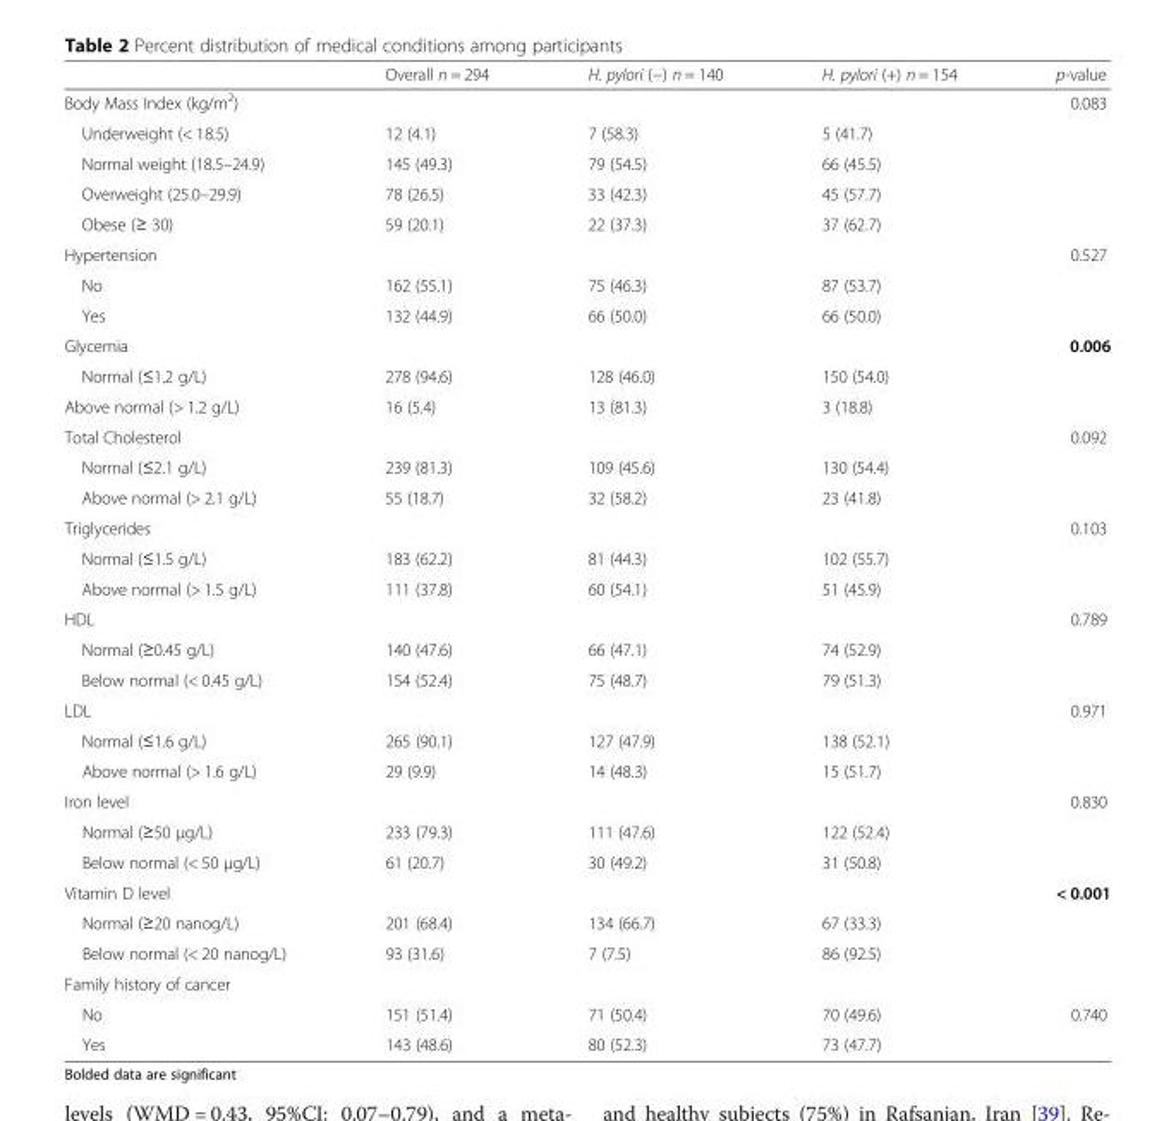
<table><thead><tr><td></td><td>Overall n = 294</td><td>H. pylori (−) n = 140</td><td>H. pylori (+) n = 154</td><td>p-value</td></tr></thead><tbody><tr><td>Body Mass Index (kg/m<sup>2</sup>)</td><td></td><td></td><td></td><td>0.083</td></tr><tr><td>Underweight (&lt; 18.5)</td><td>12 (4.1)</td><td>7 (58.3)</td><td>5 (41.7)</td><td></td></tr><tr><td>Normal weight (18.5–24.9)</td><td>145 (49.3)</td><td>79 (54.5)</td><td>66 (45.5)</td><td></td></tr><tr><td>Overweight (25.0–29.9)</td><td>78 (26.5)</td><td>33 (42.3)</td><td>45 (57.7)</td><td></td></tr><tr><td>Obese (≥ 30)</td><td>59 (20.1)</td><td>22 (37.3)</td><td>37 (62.7)</td><td></td></tr><tr><td>Hypertension</td><td></td><td></td><td></td><td>0.527</td></tr><tr><td>No</td><td>162 (55.1)</td><td>75 (46.3)</td><td>87 (53.7)</td><td></td></tr><tr><td>Yes</td><td>132 (44.9)</td><td>66 (50.0)</td><td>66 (50.0)</td><td></td></tr><tr><td>Glycemia</td><td></td><td></td><td></td><td>0.006</td></tr><tr><td>Normal (≤1.2 g/L)</td><td>278 (94.6)</td><td>128 (46.0)</td><td>150 (54.0)</td><td></td></tr><tr><td>Above normal (&gt; 1.2 g/L)</td><td>16 (5.4)</td><td>13 (81.3)</td><td>3 (18.8)</td><td></td></tr><tr><td>Total Cholesterol</td><td></td><td></td><td></td><td>0.092</td></tr><tr><td>Normal (≤2.1 g/L)</td><td>239 (81.3)</td><td>109 (45.6)</td><td>130 (54.4)</td><td></td></tr><tr><td>Above normal (&gt; 2.1 g/L)</td><td>55 (18.7)</td><td>32 (58.2)</td><td>23 (41.8)</td><td></td></tr><tr><td>Triglycerides</td><td></td><td></td><td></td><td>0.103</td></tr><tr><td>Normal (≤1.5 g/L)</td><td>183 (62.2)</td><td>81 (44.3)</td><td>102 (55.7)</td><td></td></tr><tr><td>Above normal (&gt; 1.5 g/L)</td><td>111 (37.8)</td><td>60 (54.1)</td><td>51 (45.9)</td><td></td></tr><tr><td>HDL</td><td></td><td></td><td></td><td>0.789</td></tr><tr><td>Normal (≥0.45 g/L)</td><td>140 (47.6)</td><td>66 (47.1)</td><td>74 (52.9)</td><td></td></tr><tr><td>Below normal (&lt; 0.45 g/L)</td><td>154 (52.4)</td><td>75 (48.7)</td><td>79 (51.3)</td><td></td></tr><tr><td>LDL</td><td></td><td></td><td></td><td>0.971</td></tr><tr><td>Normal (≤1.6 g/L)</td><td>265 (90.1)</td><td>127 (47.9)</td><td>138 (52.1)</td><td></td></tr><tr><td>Above normal (&gt; 1.6 g/L)</td><td>29 (9.9)</td><td>14 (48.3)</td><td>15 (51.7)</td><td></td></tr><tr><td>Iron level</td><td></td><td></td><td></td><td>0.830</td></tr><tr><td>Normal (≥50 μg/L)</td><td>233 (79.3)</td><td>111 (47.6)</td><td>122 (52.4)</td><td></td></tr><tr><td>Below normal (&lt; 50 μg/L)</td><td>61 (20.7)</td><td>30 (49.2)</td><td>31 (50.8)</td><td></td></tr><tr><td>Vitamin D level</td><td></td><td></td><td></td><td>&lt; 0.001</td></tr><tr><td>Normal (≥20 nanog/L)</td><td>201 (68.4)</td><td>134 (66.7)</td><td>67 (33.3)</td><td></td></tr><tr><td>Below normal (&lt; 20 nanog/L)</td><td>93 (31.6)</td><td>7 (7.5)</td><td>86 (92.5)</td><td></td></tr><tr><td colspan="5">Family history of cancer</td></tr><tr><td>No</td><td>151 (51.4)</td><td>71 (50.4)</td><td>70 (49.6)</td><td>0.740</td></tr><tr><td>Yes</td><td>143 (48.6)</td><td>80 (52.3)</td><td>73 (47.7)</td><td></td></tr></tbody></table>